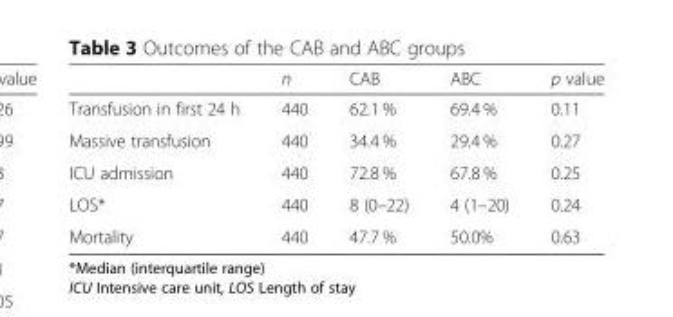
<table><thead><tr><td></td><td>n</td><td>CAB</td><td>ABC</td><td>p value</td></tr></thead><tbody><tr><td>Transfusion in first 24 h</td><td>440</td><td>62.1 %</td><td>69.4 %</td><td>0.11</td></tr><tr><td>Massive transfusion</td><td>440</td><td>34.4 %</td><td>29.4 %</td><td>0.27</td></tr><tr><td>ICU admission</td><td>440</td><td>72.8 %</td><td>67.8 %</td><td>0.25</td></tr><tr><td>LOS*</td><td>440</td><td>8 (0–22)</td><td>4 (1–20)</td><td>0.24</td></tr><tr><td>Mortality</td><td>440</td><td>47.7 %</td><td>50.0%</td><td>0.63</td></tr></tbody></table>